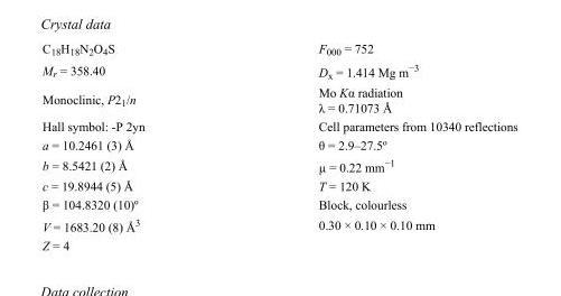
<table><tbody><tr><td>C<sub>18</sub>H<sub>18</sub>N<sub>2</sub>O<sub>4</sub>S</td><td>F000 = 752</td></tr><tr><td>M<sub>r</sub> = 358.40</td><td>D<sub>x</sub> = 1.414 Mg m<sup>−3</sup></td></tr><tr><td>Monoclinic, P2<sub>1</sub>/n</td><td>Mo Kα radiation λ = 0.71073 Å</td></tr><tr><td>Hall symbol: -P 2yn</td><td>Cell parameters from 10340 reflections</td></tr><tr><td>a = 10.2461 (3) Å</td><td>θ = 2.9–27.5º</td></tr><tr><td>b = 8.5421 (2) Å</td><td>µ = 0.22 mm<sup>−1</sup></td></tr><tr><td>c = 19.8944 (5) Å</td><td>T = 120 K</td></tr><tr><td>β = 104.8320 (10)º</td><td>Block, colourless</td></tr><tr><td>V = 1683.20 (8) Å<sup>3</sup></td><td>0.30 × 0.10 × 0.10 mm</td></tr><tr><td>Z = 4</td><td></td></tr></tbody></table>